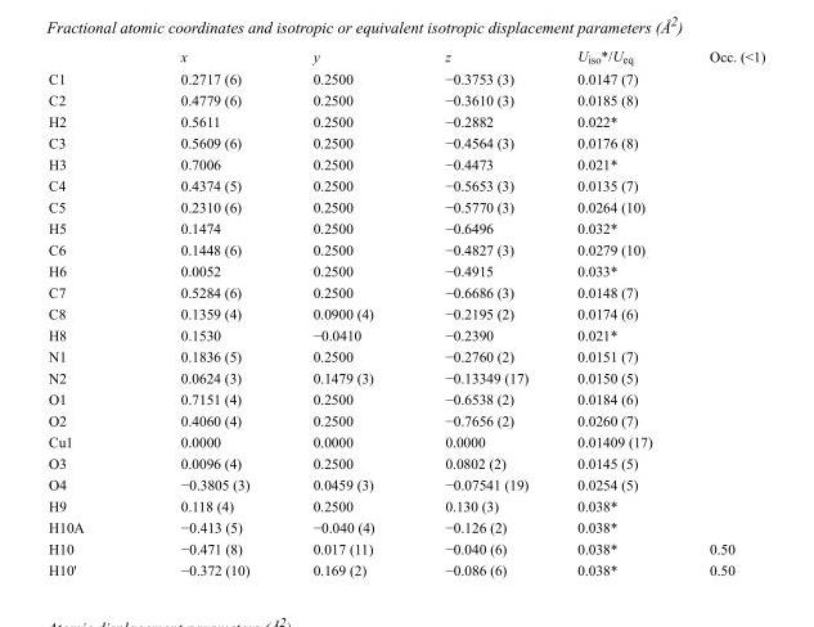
<table><thead><tr><td></td><td>x</td><td>y</td><td>z</td><td>U<sub>iso</sub>*/U<sub>eq</sub></td><td>Occ. (&lt;1)</td></tr></thead><tbody><tr><td>C1</td><td>0.2717 (6)</td><td>0.2500</td><td>−0.3753 (3)</td><td>0.0147 (7)</td><td></td></tr><tr><td>C2</td><td>0.4779 (6)</td><td>0.2500</td><td>−0.3610 (3)</td><td>0.0185 (8)</td><td></td></tr><tr><td>H2</td><td>0.5611</td><td>0.2500</td><td>−0.2882</td><td>0.022*</td><td></td></tr><tr><td>C3</td><td>0.5609 (6)</td><td>0.2500</td><td>−0.4564 (3)</td><td>0.0176 (8)</td><td></td></tr><tr><td>H3</td><td>0.7006</td><td>0.2500</td><td>−0.4473</td><td>0.021*</td><td></td></tr><tr><td>C4</td><td>0.4374 (5)</td><td>0.2500</td><td>−0.5653 (3)</td><td>0.0135 (7)</td><td></td></tr><tr><td>C5</td><td>0.2310 (6)</td><td>0.2500</td><td>−0.5770 (3)</td><td>0.0264 (10)</td><td></td></tr><tr><td>H5</td><td>0.1474</td><td>0.2500</td><td>−0.6496</td><td>0.032*</td><td></td></tr><tr><td>C6</td><td>0.1448 (6)</td><td>0.2500</td><td>−0.4827 (3)</td><td>0.0279 (10)</td><td></td></tr><tr><td>H6</td><td>0.0052</td><td>0.2500</td><td>−0.4915</td><td>0.033*</td><td></td></tr><tr><td>C7</td><td>0.5284 (6)</td><td>0.2500</td><td>−0.6686 (3)</td><td>0.0148 (7)</td><td></td></tr><tr><td>C8</td><td>0.1359 (4)</td><td>0.0900 (4)</td><td>−0.2195 (2)</td><td>0.0174 (6)</td><td></td></tr><tr><td>H8</td><td>0.1530</td><td>−0.0410</td><td>−0.2390</td><td>0.021*</td><td></td></tr><tr><td>N1</td><td>0.1836 (5)</td><td>0.2500</td><td>−0.2760 (2)</td><td>0.0151 (7)</td><td></td></tr><tr><td>N2</td><td>0.0624 (3)</td><td>0.1479 (3)</td><td>−0.13349 (17)</td><td>0.0150 (5)</td><td></td></tr><tr><td>O1</td><td>0.7151 (4)</td><td>0.2500</td><td>−0.6538 (2)</td><td>0.0184 (6)</td><td></td></tr><tr><td>O2</td><td>0.4060 (4)</td><td>0.2500</td><td>−0.7656 (2)</td><td>0.0260 (7)</td><td></td></tr><tr><td>Cu1</td><td>0.0000</td><td>0.0000</td><td>0.0000</td><td>0.01409 (17)</td><td></td></tr><tr><td>O3</td><td>0.0096 (4)</td><td>0.2500</td><td>0.0802 (2)</td><td>0.0145 (5)</td><td></td></tr><tr><td>O4</td><td>−0.3805 (3)</td><td>0.0459 (3)</td><td>−0.07541 (19)</td><td>0.0254 (5)</td><td></td></tr><tr><td>H9</td><td>0.118 (4)</td><td>0.2500</td><td>0.130 (3)</td><td>0.038*</td><td></td></tr><tr><td>H10A</td><td>−0.413 (5)</td><td>−0.040 (4)</td><td>−0.126 (2)</td><td>0.038*</td><td></td></tr><tr><td>H10</td><td>−0.471 (8)</td><td>0.017 (11)</td><td>−0.040 (6)</td><td>0.038*</td><td>0.50</td></tr><tr><td>H10&#x27;</td><td>−0.372 (10)</td><td>0.169 (2)</td><td>−0.086 (6)</td><td>0.038*</td><td>0.50</td></tr></tbody></table>